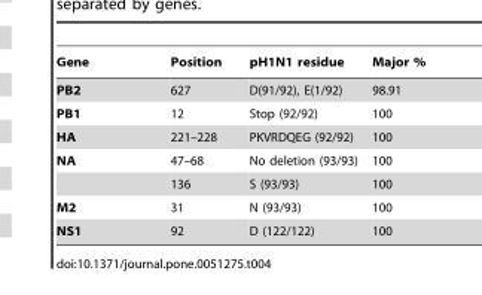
<table><thead><tr><td>Gene</td><td>Position</td><td>pH1N1 residue</td><td>Major %</td></tr></thead><tbody><tr><td>PB2</td><td>627</td><td>D(91/92), E(1/92)</td><td>98.91</td></tr><tr><td>PB1</td><td>12</td><td>Stop (92/92)</td><td>100</td></tr><tr><td>HA</td><td>221–228</td><td>PKVRDQEG (92/92)</td><td>100</td></tr><tr><td rowspan="2">NA</td><td>47–68</td><td>No deletion (93/93)</td><td>100</td></tr><tr><td>136</td><td>S (93/93)</td><td>100</td></tr><tr><td>M2</td><td>31</td><td>N (93/93)</td><td>100</td></tr><tr><td>NS1</td><td>92</td><td>D (122/122)</td><td>100</td></tr></tbody></table>